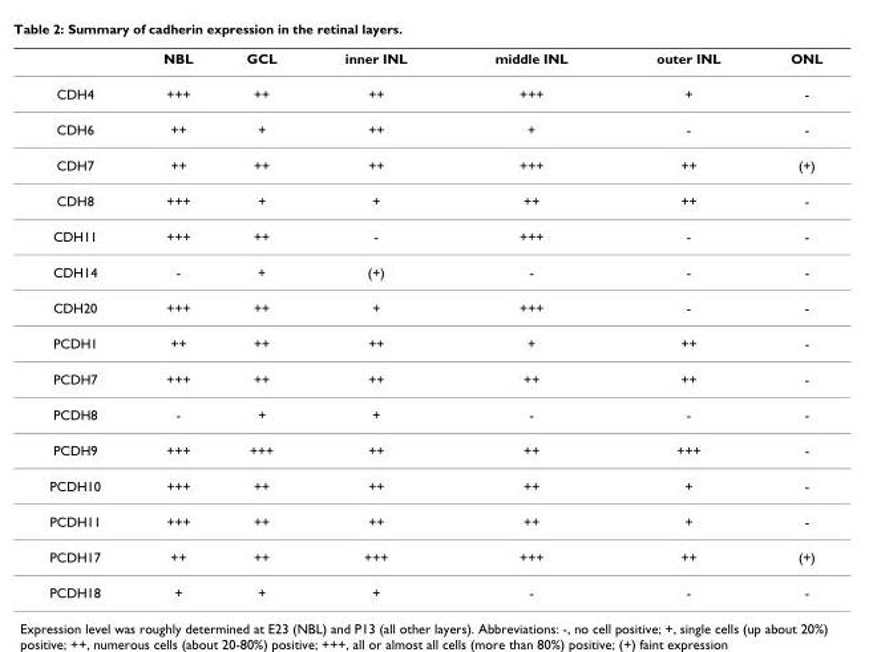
<table><thead><tr><td></td><td>NBL</td><td>GCL</td><td>inner INL</td><td>middle INL</td><td>outer INL</td><td>ONL</td></tr></thead><tbody><tr><td>CDH4</td><td>+++</td><td>++</td><td>++</td><td>+++</td><td>+</td><td>-</td></tr><tr><td>CDH6</td><td>++</td><td>+</td><td>++</td><td>+</td><td>-</td><td>-</td></tr><tr><td>CDH7</td><td>++</td><td>++</td><td>++</td><td>+++</td><td>++</td><td>(+)</td></tr><tr><td>CDH8</td><td>+++</td><td>+</td><td>+</td><td>++</td><td>++</td><td>-</td></tr><tr><td>CDH11</td><td>+++</td><td>++</td><td>-</td><td>+++</td><td>-</td><td>-</td></tr><tr><td>CDH14</td><td>-</td><td>+</td><td>(+)</td><td>-</td><td>-</td><td>-</td></tr><tr><td>CDH20</td><td>+++</td><td>++</td><td>+</td><td>+++</td><td>-</td><td>-</td></tr><tr><td>PCDH1</td><td>++</td><td>++</td><td>++</td><td>+</td><td>++</td><td>-</td></tr><tr><td>PCDH7</td><td>+++</td><td>++</td><td>++</td><td>++</td><td>++</td><td>-</td></tr><tr><td>PCDH8</td><td>-</td><td>+</td><td>+</td><td>-</td><td>-</td><td>-</td></tr><tr><td>PCDH9</td><td>+++</td><td>+++</td><td>++</td><td>++</td><td>+++</td><td>-</td></tr><tr><td>PCDH10</td><td>+++</td><td>++</td><td>++</td><td>++</td><td>+</td><td>-</td></tr><tr><td>PCDH11</td><td>+++</td><td>++</td><td>++</td><td>++</td><td>+</td><td>-</td></tr><tr><td>PCDH17</td><td>++</td><td>++</td><td>+++</td><td>+++</td><td>++</td><td>(+)</td></tr><tr><td>PCDH18</td><td>+</td><td>+</td><td>+</td><td>-</td><td>-</td><td>-</td></tr></tbody></table>